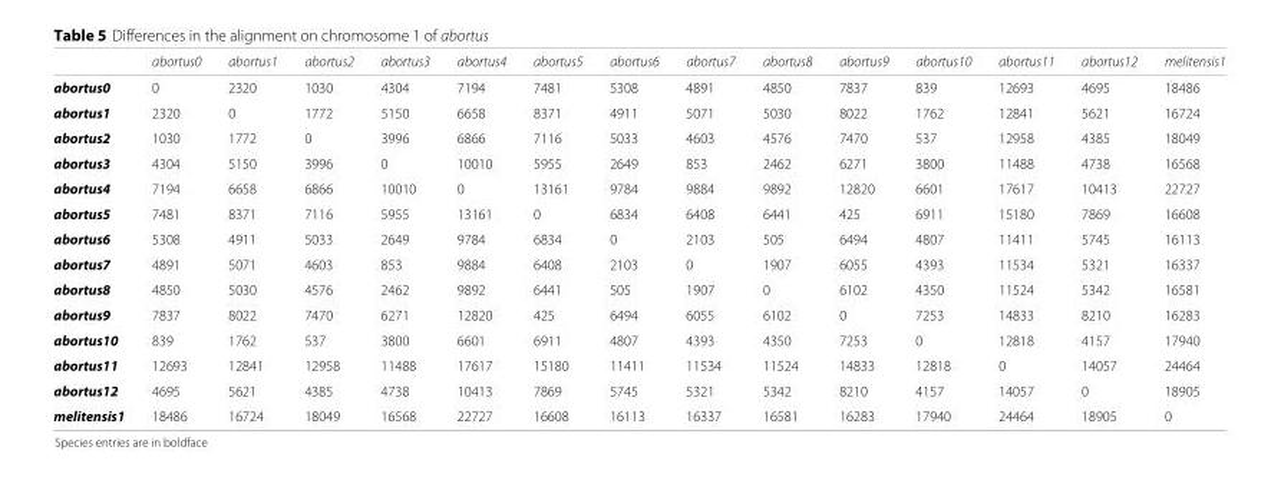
<table><thead><tr><td></td><td>abortus0</td><td>abortus1</td><td>abortus2</td><td>abortus3</td><td>abortus4</td><td>abortus5</td><td>abortus6</td><td>abortus7</td><td>abortus8</td><td>abortus9</td><td>abortus10</td><td>abortus11</td><td>abortus12</td><td>melitensis1</td></tr></thead><tbody><tr><td>abortus0</td><td>0</td><td>2320</td><td>1030</td><td>4304</td><td>7194</td><td>7481</td><td>5308</td><td>4891</td><td>4850</td><td>7837</td><td>839</td><td>12693</td><td>4695</td><td>18486</td></tr><tr><td>abortus1</td><td>2320</td><td>0</td><td>1772</td><td>5150</td><td>6658</td><td>8371</td><td>4911</td><td>5071</td><td>5030</td><td>8022</td><td>1762</td><td>12841</td><td>5621</td><td>16724</td></tr><tr><td>abortus2</td><td>1030</td><td>1772</td><td>0</td><td>3996</td><td>6866</td><td>7116</td><td>5033</td><td>4603</td><td>4576</td><td>7470</td><td>537</td><td>12958</td><td>4385</td><td>18049</td></tr><tr><td>abortus3</td><td>4304</td><td>5150</td><td>3996</td><td>0</td><td>10010</td><td>5955</td><td>2649</td><td>853</td><td>2462</td><td>6271</td><td>3800</td><td>11488</td><td>4738</td><td>16568</td></tr><tr><td>abortus4</td><td>7194</td><td>6658</td><td>6866</td><td>10010</td><td>0</td><td>13161</td><td>9784</td><td>9884</td><td>9892</td><td>12820</td><td>6601</td><td>17617</td><td>10413</td><td>22727</td></tr><tr><td>abortus5</td><td>7481</td><td>8371</td><td>7116</td><td>5955</td><td>13161</td><td>0</td><td>6834</td><td>6408</td><td>6441</td><td>425</td><td>6911</td><td>15180</td><td>7869</td><td>16608</td></tr><tr><td>abortus6</td><td>5308</td><td>4911</td><td>5033</td><td>2649</td><td>9784</td><td>6834</td><td>0</td><td>2103</td><td>505</td><td>6494</td><td>4807</td><td>11411</td><td>5745</td><td>16113</td></tr><tr><td>abortus7</td><td>4891</td><td>5071</td><td>4603</td><td>853</td><td>9884</td><td>6408</td><td>2103</td><td>0</td><td>1907</td><td>6055</td><td>4393</td><td>11534</td><td>5321</td><td>16337</td></tr><tr><td>abortus8</td><td>4850</td><td>5030</td><td>4576</td><td>2462</td><td>9892</td><td>6441</td><td>505</td><td>1907</td><td>0</td><td>6102</td><td>4350</td><td>11524</td><td>5342</td><td>16581</td></tr><tr><td>abortus9</td><td>7837</td><td>8022</td><td>7470</td><td>6271</td><td>12820</td><td>425</td><td>6494</td><td>6055</td><td>6102</td><td>0</td><td>7253</td><td>14833</td><td>8210</td><td>16283</td></tr><tr><td>abortus10</td><td>839</td><td>1762</td><td>537</td><td>3800</td><td>6601</td><td>6911</td><td>4807</td><td>4393</td><td>4350</td><td>7253</td><td>0</td><td>12818</td><td>4157</td><td>17940</td></tr><tr><td>abortus11</td><td>12693</td><td>12841</td><td>12958</td><td>11488</td><td>17617</td><td>15180</td><td>11411</td><td>11534</td><td>11524</td><td>14833</td><td>12818</td><td>0</td><td>14057</td><td>24464</td></tr><tr><td>abortus12</td><td>4695</td><td>5621</td><td>4385</td><td>4738</td><td>10413</td><td>7869</td><td>5745</td><td>5321</td><td>5342</td><td>8210</td><td>4157</td><td>14057</td><td>0</td><td>18905</td></tr><tr><td>melitensis1</td><td>18486</td><td>16724</td><td>18049</td><td>16568</td><td>22727</td><td>16608</td><td>16113</td><td>16337</td><td>16581</td><td>16283</td><td>17940</td><td>24464</td><td>18905</td><td>0</td></tr></tbody></table>